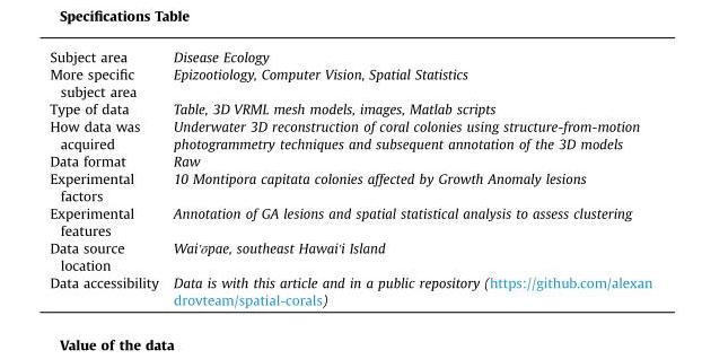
<table><tbody><tr><td>Subject area</td><td>Disease Ecology</td></tr><tr><td>More specific subject area</td><td>Epizootiology, Computer Vision, Spatial Statistics</td></tr><tr><td>Type of data</td><td>Table, 3D VRML mesh models, images, Matlab scripts</td></tr><tr><td>How data was acquired</td><td>Underwater 3D reconstruction of coral colonies using structure-from-motion photogrammetry techniques and subsequent annotation of the 3D models</td></tr><tr><td>Data format</td><td>Raw</td></tr><tr><td>Experimental factors</td><td>10 Montipora capitata colonies affected by Growth Anomaly lesions</td></tr><tr><td>Experimental features</td><td>Annotation of GA lesions and spatial statistical analysis to assess clustering</td></tr><tr><td>Data source location</td><td>Wai&#x27;ōpae, southeast Hawai&#x27;i Island</td></tr><tr><td>Data accessibility</td><td>Data is with this article and in a public repository (https://github.com/alexan drovteam/spatial-corals)</td></tr></tbody></table>